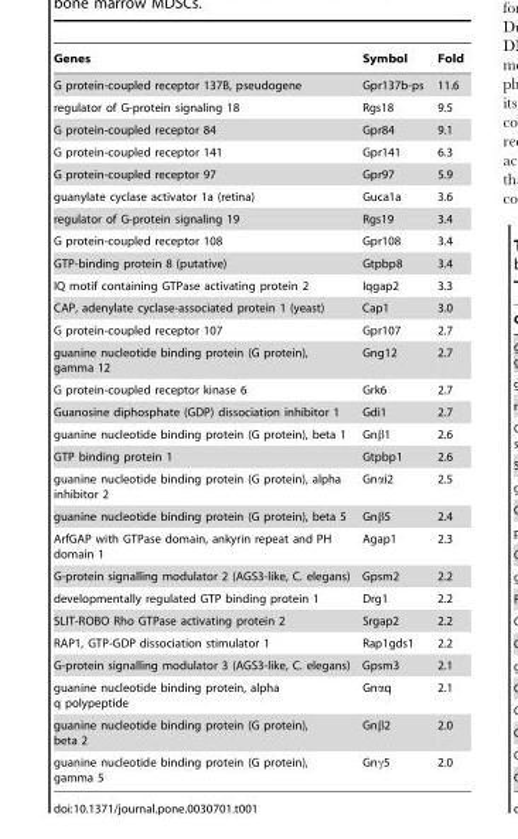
<table><thead><tr><td>Genes</td><td>Symbol</td><td>Fold</td></tr></thead><tbody><tr><td>G protein-coupled receptor 137B, pseudogene</td><td>Gpr137b-ps</td><td>11.6</td></tr><tr><td>regulator of G-protein signaling 18</td><td>Rgs18</td><td>9.5</td></tr><tr><td>G protein-coupled receptor 84</td><td>Gpr84</td><td>9.1</td></tr><tr><td>G protein-coupled receptor 141</td><td>Gpr141</td><td>6.3</td></tr><tr><td>G protein-coupled receptor 97</td><td>Gpr97</td><td>5.9</td></tr><tr><td>guanylate cyclase activator 1a (retina)</td><td>Guca1a</td><td>3.6</td></tr><tr><td>regulator of G-protein signaling 19</td><td>Rgs19</td><td>3.4</td></tr><tr><td>G protein-coupled receptor 108</td><td>Gpr108</td><td>3.4</td></tr><tr><td>GTP-binding protein 8 (putative)</td><td>Gtpbp8</td><td>3.4</td></tr><tr><td>IQ motif containing GTPase activating protein 2</td><td>Iqgap2</td><td>3.3</td></tr><tr><td>CAP, adenylate cyclase-associated protein 1 (yeast)</td><td>Cap1</td><td>3.0</td></tr><tr><td>G protein-coupled receptor 107</td><td>Gpr107</td><td>2.7</td></tr><tr><td>guanine nucleotide binding protein (G protein), gamma 12</td><td>Gng12</td><td>2.7</td></tr><tr><td>G protein-coupled receptor kinase 6</td><td>Grk6</td><td>2.7</td></tr><tr><td>Guanosine diphosphate (GDP) dissociation inhibitor 1</td><td>Gdi1</td><td>2.7</td></tr><tr><td>guanine nucleotide binding protein (G protein), beta 1</td><td>Gnβ1</td><td>2.6</td></tr><tr><td>GTP binding protein 1</td><td>Gtpbp1</td><td>2.6</td></tr><tr><td>guanine nucleotide binding protein (G protein), alpha inhibitor 2</td><td>Gnαi2</td><td>2.5</td></tr><tr><td>guanine nucleotide binding protein (G protein), beta 5</td><td>Gnβ5</td><td>2.4</td></tr><tr><td>ArfGAP with GTPase domain, ankyrin repeat and PH domain 1</td><td>Agap1</td><td>2.3</td></tr><tr><td>G-protein signalling modulator 2 (AGS3-like, C. elegans)</td><td>Gpsm2</td><td>2.2</td></tr><tr><td>developmentally regulated GTP binding protein 1</td><td>Drg1</td><td>2.2</td></tr><tr><td>SLIT-ROBO Rho GTPase activating protein 2</td><td>Srgap2</td><td>2.2</td></tr><tr><td>RAP1, GTP-GDP dissociation stimulator 1</td><td>Rap1gds1</td><td>2.2</td></tr><tr><td>G-protein signalling modulator 3 (AGS3-like, C. elegans)</td><td>Gpsm3</td><td>2.1</td></tr><tr><td>guanine nucleotide binding protein, alpha q polypeptide</td><td>Gnαq</td><td>2.1</td></tr><tr><td>guanine nucleotide binding protein (G protein), beta 2</td><td>Gnβ2</td><td>2.0</td></tr><tr><td>guanine nucleotide binding protein (G protein), gamma 5</td><td>Gnγ5</td><td>2.0</td></tr></tbody></table>